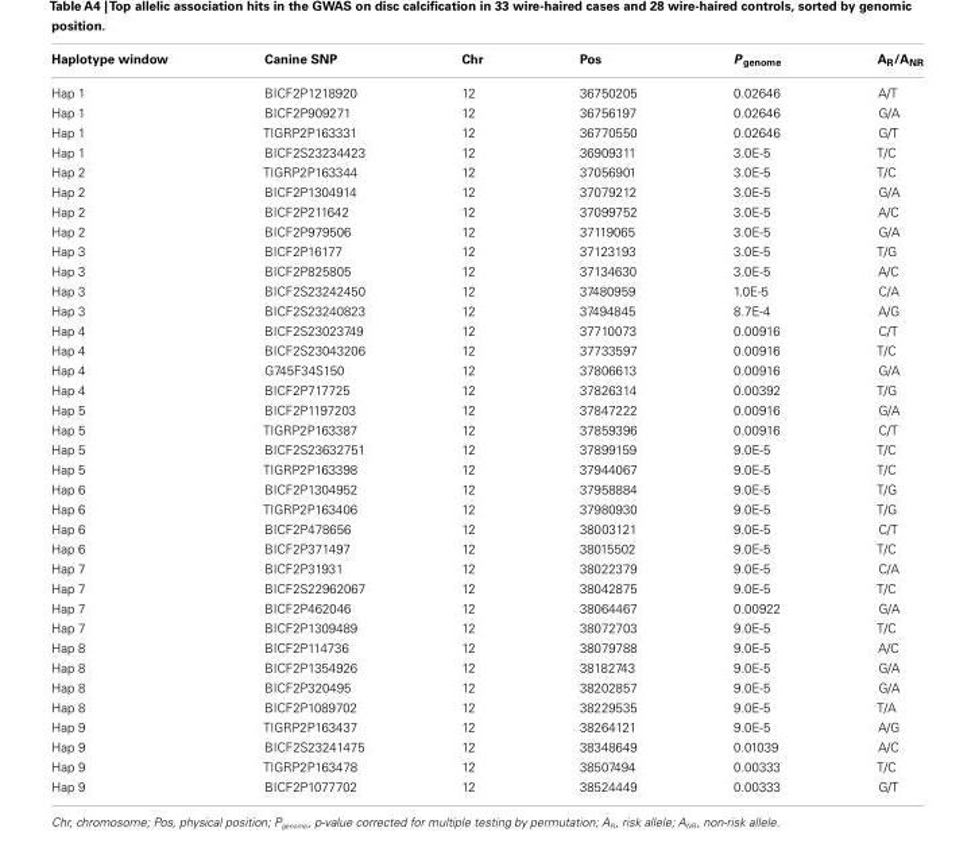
<table><thead><tr><td>Haplotype window</td><td>Canine SNP</td><td>Chr</td><td>Pos</td><td>P <sub>genome</sub></td><td>A<sub>R</sub>/A<sub>NR</sub></td></tr></thead><tbody><tr><td>Hap 1</td><td>BICF2P1218920</td><td>12</td><td>36750205</td><td>0.02646</td><td>A/T</td></tr><tr><td>Hap 1</td><td>BICF2P909271</td><td>12</td><td>36756197</td><td>0.02646</td><td>G/A</td></tr><tr><td>Hap 1</td><td>TIGRP2P163331</td><td>12</td><td>36770550</td><td>0.02646</td><td>G/T</td></tr><tr><td>Hap 1</td><td>BICF2S23234423</td><td>12</td><td>36909311</td><td>3.0E-5</td><td>T/C</td></tr><tr><td>Hap 2</td><td>TIGRP2P163344</td><td>12</td><td>37056901</td><td>3.0E-5</td><td>T/C</td></tr><tr><td>Hap 2</td><td>BICF2P1304914</td><td>12</td><td>37079212</td><td>3.0E-5</td><td>G/A</td></tr><tr><td>Hap 2</td><td>BICF2P211642</td><td>12</td><td>37099752</td><td>3.0E-5</td><td>A/C</td></tr><tr><td>Hap 2</td><td>BICF2P979506</td><td>12</td><td>37119065</td><td>3.0E-5</td><td>G/A</td></tr><tr><td>Hap 3</td><td>BICF2P16177</td><td>12</td><td>37123193</td><td>3.0E-5</td><td>T/G</td></tr><tr><td>Hap 3</td><td>BICF2P825805</td><td>12</td><td>37134630</td><td>3.0E-5</td><td>A/C</td></tr><tr><td>Hap 3</td><td>BICF2S23242450</td><td>12</td><td>37480959</td><td>1.0E-5</td><td>C/A</td></tr><tr><td>Hap 3</td><td>BICF2S23240823</td><td>12</td><td>37494845</td><td>8.7E-4</td><td>A/G</td></tr><tr><td>Hap 4</td><td>BICF2S23023749</td><td>12</td><td>37710073</td><td>0.00916</td><td>C/T</td></tr><tr><td>Hap 4</td><td>BICF2S23043206</td><td>12</td><td>37733597</td><td>0.00916</td><td>T/C</td></tr><tr><td>Hap 4</td><td>G745F34S150</td><td>12</td><td>37806613</td><td>0.00916</td><td>G/A</td></tr><tr><td>Hap 4</td><td>BICF2P717725</td><td>12</td><td>37826314</td><td>0.00392</td><td>T/G</td></tr><tr><td>Hap 5</td><td>BICF2P1197203</td><td>12</td><td>37847222</td><td>0.00916</td><td>G/A</td></tr><tr><td>Hap 5</td><td>TIGRP2P163387</td><td>12</td><td>37859396</td><td>0.00916</td><td>C/T</td></tr><tr><td>Hap 5</td><td>BICF2S23632751</td><td>12</td><td>37899159</td><td>9.0E-5</td><td>T/C</td></tr><tr><td>Hap 5</td><td>TIGRP2P163398</td><td>12</td><td>37944067</td><td>9.0E-5</td><td>T/C</td></tr><tr><td>Hap 6</td><td>BICF2P1304952</td><td>12</td><td>37958884</td><td>9.0E-5</td><td>T/G</td></tr><tr><td>Hap 6</td><td>TIGRP2P163406</td><td>12</td><td>37980930</td><td>9.0E-5</td><td>T/G</td></tr><tr><td>Hap 6</td><td>BICF2P478656</td><td>12</td><td>38003121</td><td>9.0E-5</td><td>C/T</td></tr><tr><td>Hap 6</td><td>BICF2P371497</td><td>12</td><td>38015502</td><td>9.0E-5</td><td>T/C</td></tr><tr><td>Hap 7</td><td>BICF2P31931</td><td>12</td><td>38022379</td><td>9.0E-5</td><td>C/A</td></tr><tr><td>Hap 7</td><td>BICF2S22962067</td><td>12</td><td>38042875</td><td>9.0E-5</td><td>T/C</td></tr><tr><td>Hap 7</td><td>BICF2P462046</td><td>12</td><td>38064467</td><td>0.00922</td><td>G/A</td></tr><tr><td>Hap 7</td><td>BICF2P1309489</td><td>12</td><td>38072703</td><td>9.0E-5</td><td>T/C</td></tr><tr><td>Hap 8</td><td>BICF2P114736</td><td>12</td><td>38079788</td><td>9.0E-5</td><td>A/C</td></tr><tr><td>Hap 8</td><td>BICF2P1354926</td><td>12</td><td>38182743</td><td>9.0E-5</td><td>G/A</td></tr><tr><td>Hap 8</td><td>BICF2P320495</td><td>12</td><td>38202857</td><td>9.0E-5</td><td>G/A</td></tr><tr><td>Hap 8</td><td>BICF2P1089702</td><td>12</td><td>38229535</td><td>9.0E-5</td><td>T/A</td></tr><tr><td>Hap 9</td><td>TIGRP2P163437</td><td>12</td><td>38264121</td><td>9.0E-5</td><td>A/G</td></tr><tr><td>Hap 9</td><td>BICF2S23241475</td><td>12</td><td>38348649</td><td>0.01039</td><td>A/C</td></tr><tr><td>Hap 9</td><td>TIGRP2P163478</td><td>12</td><td>38507494</td><td>0.00333</td><td>T/C</td></tr><tr><td>Hap 9</td><td>BICF2P1077702</td><td>12</td><td>38524449</td><td>0.00333</td><td>G/T</td></tr></tbody></table>